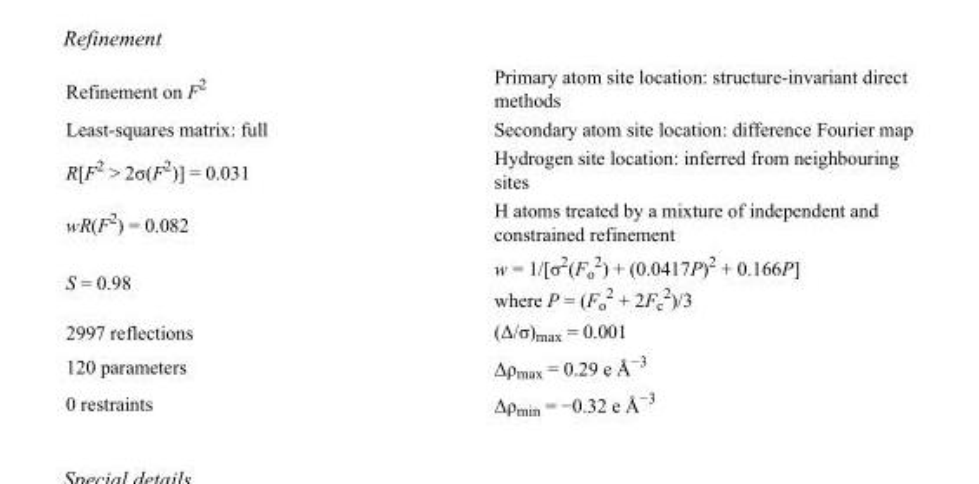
<table><tbody><tr><td>Refinement on F<sup>2</sup></td><td>Primary atom site location: structure-invariant direct methods</td></tr><tr><td>Least-squares matrix: full</td><td>Secondary atom site location: difference Fourier map</td></tr><tr><td>R[F<sup>2</sup> &gt; 2σ(F<sup>2</sup>)] = 0.031</td><td>Hydrogen site location: inferred from neighbouring sites</td></tr><tr><td>wR(F<sup>2</sup>) = 0.082</td><td>H atoms treated by a mixture of independent and constrained refinement</td></tr><tr><td>S = 0.98</td><td>w = 1/[σ<sup>2</sup>(F<sub>o</sub> <sup>2</sup>) + (0.0417P)<sup>2</sup> + 0.166P] where P = (F<sub>o</sub> <sup>2</sup> + 2F<sub>c</sub> <sup>2</sup>)/3</td></tr><tr><td>2997 reflections</td><td>(Δ/σ)<sub>max</sub> = 0.001</td></tr><tr><td>120 parameters</td><td>Δρ<sub>max</sub> = 0.29 e Å<sup>−3</sup></td></tr><tr><td>0 restraints</td><td>Δρ<sub>min</sub> = −0.32 e Å<sup>−3</sup></td></tr></tbody></table>